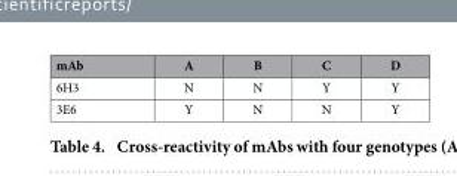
<table><thead><tr><td>mAb</td><td>A</td><td>B</td><td>C</td><td>D</td></tr></thead><tbody><tr><td>6H3</td><td>N</td><td>N</td><td>Y</td><td>Y</td></tr><tr><td>3E6</td><td>Y</td><td>N</td><td>N</td><td>Y</td></tr></tbody></table>